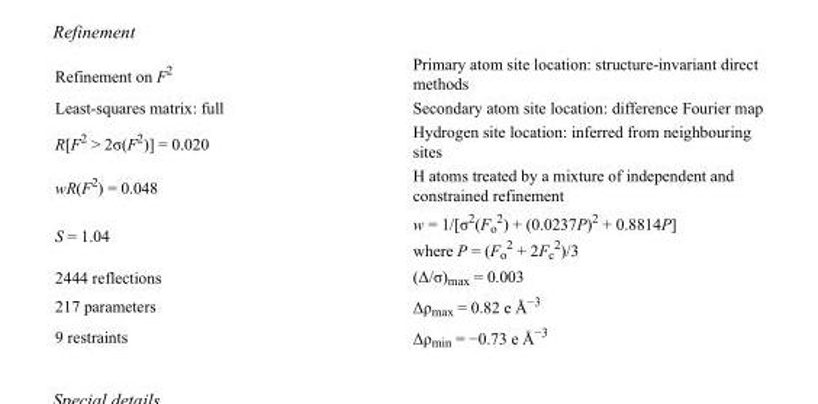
<table><tbody><tr><td>Refinement on F<sup>2</sup></td><td>Primary atom site location: structure-invariant direct methods</td></tr><tr><td>Least-squares matrix: full</td><td>Secondary atom site location: difference Fourier map</td></tr><tr><td>R[F<sup>2</sup> &gt; 2σ(F<sup>2</sup>)] = 0.020</td><td>Hydrogen site location: inferred from neighbouring sites</td></tr><tr><td>wR(F<sup>2</sup>) = 0.048</td><td>H atoms treated by a mixture of independent and constrained refinement</td></tr><tr><td>S = 1.04</td><td>w = 1/[σ<sup>2</sup>(F<sub>o</sub> <sup>2</sup>) + (0.0237P)<sup>2</sup> + 0.8814P] where P = (F<sub>o</sub> <sup>2</sup> + 2F<sub>c</sub> <sup>2</sup>)/3</td></tr><tr><td>2444 reflections</td><td>(Δ/σ)<sub>max</sub> = 0.003</td></tr><tr><td>217 parameters</td><td>Δρ<sub>max</sub> = 0.82 e Å<sup>−3</sup></td></tr><tr><td>9 restraints</td><td>Δρ<sub>min</sub> = −0.73 e Å<sup>−3</sup></td></tr></tbody></table>